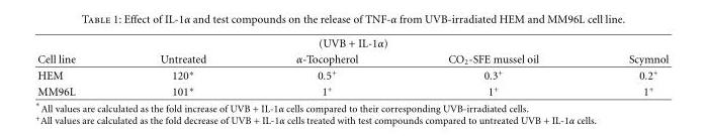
<table><thead><tr><td colspan="5">(UVB + IL-1α)</td></tr><tr><td>Cell line</td><td>Untreated</td><td>α-Tocopherol</td><td>CO<sub>2</sub>-SFE mussel oil</td><td>Scymnol</td></tr></thead><tbody><tr><td>HEM</td><td>120∗</td><td>0.5<sup>+</sup></td><td>0.3<sup>+</sup></td><td>0.2<sup>+</sup></td></tr><tr><td>MM96L</td><td>101∗</td><td>1<sup>+</sup></td><td>1<sup>+</sup></td><td>1<sup>+</sup></td></tr></tbody></table>